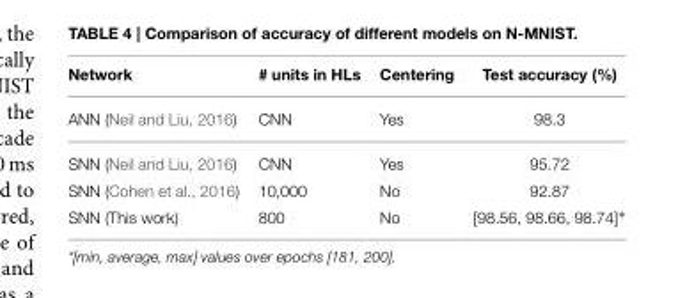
<table><thead><tr><td>Network</td><td># units in HLs</td><td>Centering</td><td>Test accuracy (%)</td></tr></thead><tbody><tr><td>ANN (Neil and Liu, 2016)</td><td>CNN</td><td>Yes</td><td>98.3</td></tr><tr><td>SNN (Neil and Liu, 2016)</td><td>CNN</td><td>Yes</td><td>95.72</td></tr><tr><td>SNN (Cohen et al., 2016)</td><td>10,000</td><td>No</td><td>92.87</td></tr><tr><td>SNN (This work)</td><td>800</td><td>No</td><td>[98.56, 98.66, 98.74]∗</td></tr></tbody></table>